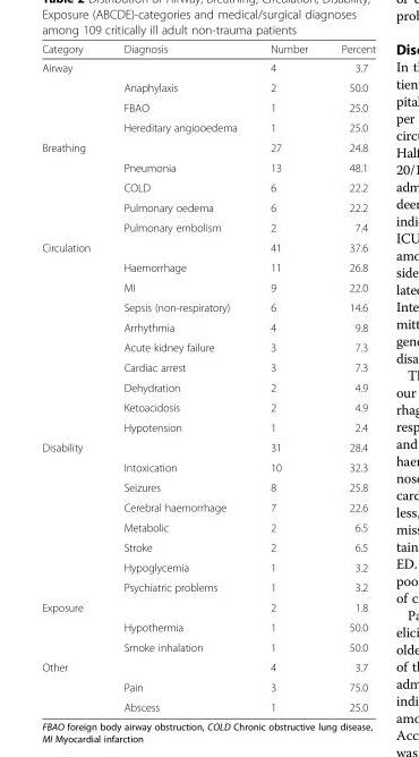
<table><thead><tr><td>Category</td><td>Diagnosis</td><td>Number</td><td>Percent</td></tr></thead><tbody><tr><td rowspan="4">Airway</td><td></td><td>4</td><td>3.7</td></tr><tr><td>Anaphylaxis</td><td>2</td><td>50.0</td></tr><tr><td>FBAO</td><td>1</td><td>25.0</td></tr><tr><td>Hereditary angiooedema</td><td>1</td><td>25.0</td></tr><tr><td rowspan="5">Breathing</td><td></td><td>27</td><td>24.8</td></tr><tr><td>Pneumonia</td><td>13</td><td>48.1</td></tr><tr><td>COLD</td><td>6</td><td>22.2</td></tr><tr><td>Pulmonary oedema</td><td>6</td><td>22.2</td></tr><tr><td>Pulmonary embolism</td><td>2</td><td>7.4</td></tr><tr><td rowspan="10">Circulation</td><td></td><td>41</td><td>37.6</td></tr><tr><td>Haemorrhage</td><td>11</td><td>26.8</td></tr><tr><td>MI</td><td>9</td><td>22.0</td></tr><tr><td>Sepsis (non-respiratory)</td><td>6</td><td>14.6</td></tr><tr><td>Arrhythmia</td><td>4</td><td>9.8</td></tr><tr><td>Acute kidney failure</td><td>3</td><td>7.3</td></tr><tr><td>Cardiac arrest</td><td>3</td><td>7.3</td></tr><tr><td>Dehydration</td><td>2</td><td>4.9</td></tr><tr><td>Ketoacidosis</td><td>2</td><td>4.9</td></tr><tr><td>Hypotension</td><td>1</td><td>2.4</td></tr><tr><td rowspan="8">Disability</td><td></td><td>31</td><td>28.4</td></tr><tr><td>Intoxication</td><td>10</td><td>32.3</td></tr><tr><td>Seizures</td><td>8</td><td>25.8</td></tr><tr><td>Cerebral haemorrhage</td><td>7</td><td>22.6</td></tr><tr><td>Metabolic</td><td>2</td><td>6.5</td></tr><tr><td>Stroke</td><td>2</td><td>6.5</td></tr><tr><td>Hypoglycemia</td><td>1</td><td>3.2</td></tr><tr><td>Psychiatric problems</td><td>1</td><td>3.2</td></tr><tr><td rowspan="3">Exposure</td><td></td><td>2</td><td>1.8</td></tr><tr><td>Hypothermia</td><td>1</td><td>50.0</td></tr><tr><td>Smoke inhalation</td><td>1</td><td>50.0</td></tr><tr><td rowspan="3">Other</td><td></td><td>4</td><td>3.7</td></tr><tr><td>Pain</td><td>3</td><td>75.0</td></tr><tr><td>Abscess</td><td>1</td><td>25.0</td></tr></tbody></table>